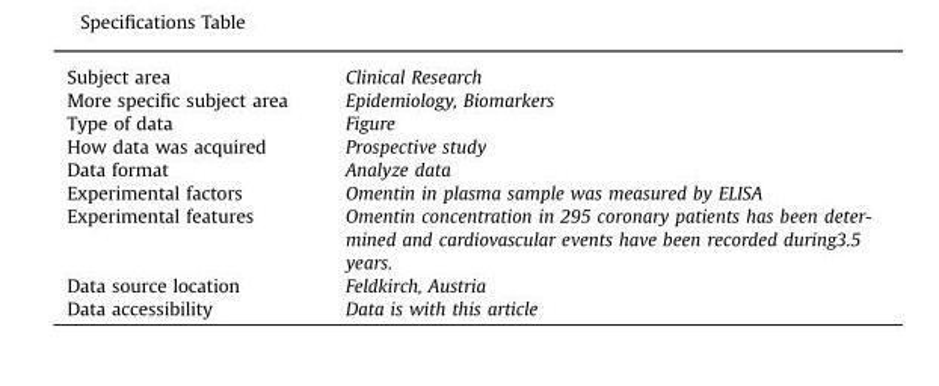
<table><tbody><tr><td>Subject area</td><td>Clinical Research</td></tr><tr><td>More specific subject area</td><td>Epidemiology, Biomarkers</td></tr><tr><td>Type of data</td><td>Figure</td></tr><tr><td>How data was acquired</td><td>Prospective study</td></tr><tr><td>Data format</td><td>Analyze data</td></tr><tr><td>Experimental factors</td><td>Omentin in plasma sample was measured by ELISA</td></tr><tr><td>Experimental features</td><td>Omentin concentration in 295 coronary patients has been deter- mined and cardiovascular events have been recorded during3.5 years.</td></tr><tr><td>Data source location</td><td>Feldkirch, Austria</td></tr><tr><td>Data accessibility</td><td>Data is with this article</td></tr></tbody></table>